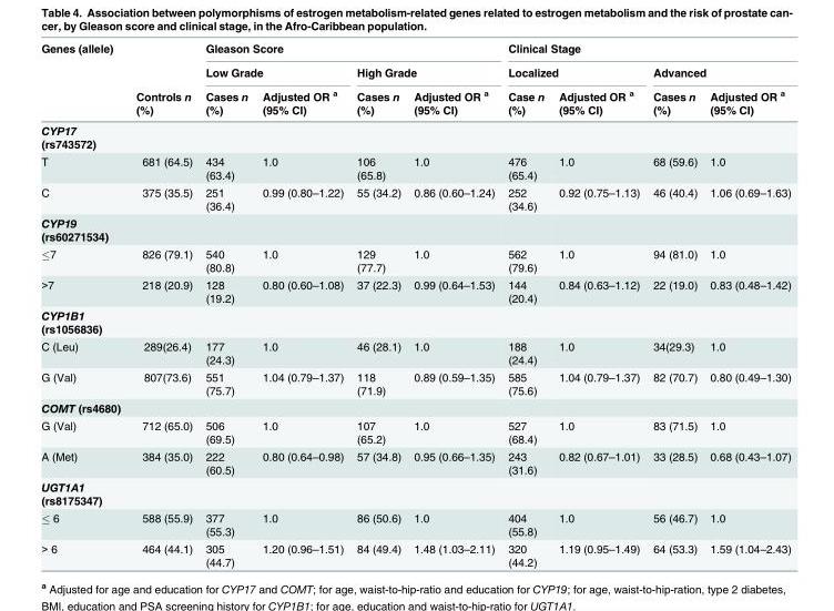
<table><thead><tr><td rowspan="3">Genes (allele)</td><td rowspan="3">Controls n (%)</td><td colspan="4">Gleason Score</td><td colspan="4">Clinical Stage</td></tr><tr><td colspan="2">Low Grade</td><td colspan="2">High Grade</td><td colspan="2">Localized</td><td colspan="2">Advanced</td></tr><tr><td>Cases n (%)</td><td>Adjusted OR <sup>a</sup> (95% CI)</td><td>Cases n (%)</td><td>Adjusted OR <sup>a</sup> (95% CI)</td><td>Case n (%)</td><td>Adjusted OR <sup>a</sup> (95% CI)</td><td>Cases n (%)</td><td>Adjusted OR <sup>a</sup> (95% CI)</td></tr></thead><tbody><tr><td colspan="10">CYP17 (rs743572)</td></tr><tr><td>T</td><td>681 (64.5)</td><td>434 (63.4)</td><td>1.0</td><td>106 (65.8)</td><td>1.0</td><td>476 (65.4)</td><td>1.0</td><td>68 (59.6)</td><td>1.0</td></tr><tr><td>C</td><td>375 (35.5)</td><td>251 (36.4)</td><td>0.99 (0.80–1.22)</td><td>55 (34.2)</td><td>0.86 (0.60–1.24)</td><td>252 (34.6)</td><td>0.92 (0.75–1.13)</td><td>46 (40.4)</td><td>1.06 (0.69–1.63)</td></tr><tr><td colspan="10">CYP19 (rs60271534)</td></tr><tr><td>≤7</td><td>826 (79.1)</td><td>540 (80.8)</td><td>1.0</td><td>129 (77.7)</td><td>1.0</td><td>562 (79.6)</td><td>1.0</td><td>94 (81.0)</td><td>1.0</td></tr><tr><td>&gt;7</td><td>218 (20.9)</td><td>128 (19.2)</td><td>0.80 (0.60–1.08)</td><td>37 (22.3)</td><td>0.99 (0.64–1.53)</td><td>144 (20.4)</td><td>0.84 (0.63–1.12)</td><td>22 (19.0)</td><td>0.83 (0.48–1.42)</td></tr><tr><td colspan="10">CYP1B1 (rs1056836)</td></tr><tr><td>C (Leu)</td><td>289(26.4)</td><td>177 (24.3)</td><td>1.0</td><td>46 (28.1)</td><td>1.0</td><td>188 (24.4)</td><td>1.0</td><td>34(29.3)</td><td>1.0</td></tr><tr><td>G (Val)</td><td>807(73.6)</td><td>551 (75.7)</td><td>1.04 (0.79–1.37)</td><td>118 (71.9)</td><td>0.89 (0.59–1.35)</td><td>585 (75.6)</td><td>1.04 (0.79–1.37)</td><td>82 (70.7)</td><td>0.80 (0.49–1.30)</td></tr><tr><td colspan="10">COMT (rs4680)</td></tr><tr><td>G (Val)</td><td>712 (65.0)</td><td>506 (69.5)</td><td>1.0</td><td>107 (65.2)</td><td>1.0</td><td>527 (68.4)</td><td>1.0</td><td>83 (71.5)</td><td>1.0</td></tr><tr><td>A (Met)</td><td>384 (35.0)</td><td>222 (60.5)</td><td>0.80 (0.64–0.98)</td><td>57 (34.8)</td><td>0.95 (0.66–1.35)</td><td>243 (31.6)</td><td>0.82 (0.67–1.01)</td><td>33 (28.5)</td><td>0.68 (0.43–1.07)</td></tr><tr><td colspan="10">UGT1A1 (rs8175347)</td></tr><tr><td>≤ 6</td><td>588 (55.9)</td><td>377 (55.3)</td><td>1.0</td><td>86 (50.6)</td><td>1.0</td><td>404 (55.8)</td><td>1.0</td><td>56 (46.7)</td><td>1.0</td></tr><tr><td>&gt; 6</td><td>464 (44.1)</td><td>305 (44.7)</td><td>1.20 (0.96–1.51)</td><td>84 (49.4)</td><td>1.48 (1.03–2.11)</td><td>320 (44.2)</td><td>1.19 (0.95–1.49)</td><td>64 (53.3)</td><td>1.59 (1.04–2.43)</td></tr></tbody></table>